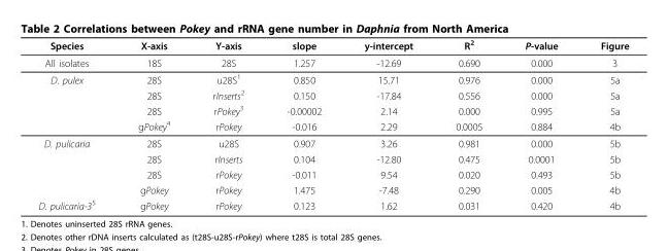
<table><thead><tr><td>Species</td><td>X-axis</td><td>Y-axis</td><td>slope</td><td>y-intercept</td><td>R<sup>2</sup></td><td>P-value</td><td>Figure</td></tr></thead><tbody><tr><td>All isolates</td><td>18S</td><td>28S</td><td>1.257</td><td>-12.69</td><td>0.690</td><td>0.000</td><td>3</td></tr><tr><td rowspan="4">D. pulex</td><td>28S</td><td>u28S<sup>1</sup></td><td>0.850</td><td>15.71</td><td>0.976</td><td>0.000</td><td>5a</td></tr><tr><td>28S</td><td>rInserts<sup>2</sup></td><td>0.150</td><td>-17.84</td><td>0.556</td><td>0.000</td><td>5a</td></tr><tr><td>28S</td><td>rPokey<sup>3</sup></td><td>-0.00002</td><td>2.14</td><td>0.000</td><td>0.995</td><td>5a</td></tr><tr><td>gPokey<sup>4</sup></td><td>rPokey</td><td>-0.016</td><td>2.29</td><td>0.0005</td><td>0.884</td><td>4b</td></tr><tr><td rowspan="4">D. pulicaria</td><td>28S</td><td>u28S</td><td>0.907</td><td>3.26</td><td>0.981</td><td>0.000</td><td>5b</td></tr><tr><td>28S</td><td>rInserts</td><td>0.104</td><td>-12.80</td><td>0.475</td><td>0.0001</td><td>5b</td></tr><tr><td>28S</td><td>rPokey</td><td>-0.011</td><td>9.54</td><td>0.020</td><td>0.493</td><td>5b</td></tr><tr><td>gPokey</td><td>rPokey</td><td>1.475</td><td>-7.48</td><td>0.290</td><td>0.005</td><td>4b</td></tr><tr><td>D. pulicaria-3<sup>5</sup></td><td>gPokey</td><td>rPokey</td><td>0.123</td><td>1.62</td><td>0.031</td><td>0.420</td><td>4b</td></tr></tbody></table>